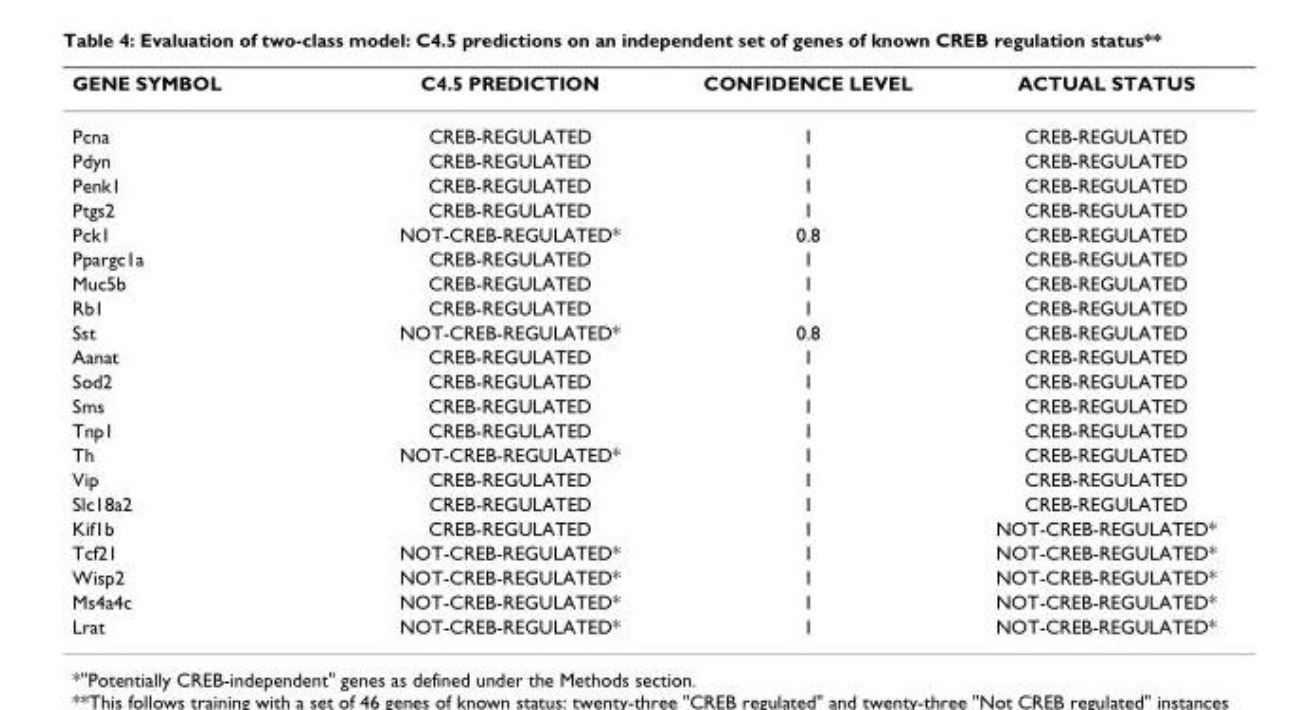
<table><thead><tr><td>GENE SYMBOL</td><td>C4.5 PREDICTION</td><td>CONFIDENCE LEVEL</td><td>ACTUAL STATUS</td></tr></thead><tbody><tr><td>Pcna</td><td>CREB-REGULATED</td><td>1</td><td>CREB-REGULATED</td></tr><tr><td>Pdyn</td><td>CREB-REGULATED</td><td>1</td><td>CREB-REGULATED</td></tr><tr><td>Penk1</td><td>CREB-REGULATED</td><td>1</td><td>CREB-REGULATED</td></tr><tr><td>Ptgs2</td><td>CREB-REGULATED</td><td>1</td><td>CREB-REGULATED</td></tr><tr><td>Pck1</td><td>NOT-CREB-REGULATED*</td><td>0.8</td><td>CREB-REGULATED</td></tr><tr><td>Ppargc1a</td><td>CREB-REGULATED</td><td>1</td><td>CREB-REGULATED</td></tr><tr><td>Muc5b</td><td>CREB-REGULATED</td><td>1</td><td>CREB-REGULATED</td></tr><tr><td>Rb1</td><td>CREB-REGULATED</td><td>1</td><td>CREB-REGULATED</td></tr><tr><td>Sst</td><td>NOT-CREB-REGULATED*</td><td>0.8</td><td>CREB-REGULATED</td></tr><tr><td>Aanat</td><td>CREB-REGULATED</td><td>1</td><td>CREB-REGULATED</td></tr><tr><td>Sod2</td><td>CREB-REGULATED</td><td>1</td><td>CREB-REGULATED</td></tr><tr><td>Sms</td><td>CREB-REGULATED</td><td>1</td><td>CREB-REGULATED</td></tr><tr><td>Tnp1</td><td>CREB-REGULATED</td><td>1</td><td>CREB-REGULATED</td></tr><tr><td>Th</td><td>NOT-CREB-REGULATED*</td><td>1</td><td>CREB-REGULATED</td></tr><tr><td>Vip</td><td>CREB-REGULATED</td><td>1</td><td>CREB-REGULATED</td></tr><tr><td>Slc18a2</td><td>CREB-REGULATED</td><td>1</td><td>CREB-REGULATED</td></tr><tr><td>Kif1b</td><td>CREB-REGULATED</td><td>1</td><td>NOT-CREB-REGULATED*</td></tr><tr><td>Tcf21</td><td>NOT-CREB-REGULATED*</td><td>1</td><td>NOT-CREB-REGULATED*</td></tr><tr><td>Wisp2</td><td>NOT-CREB-REGULATED*</td><td>1</td><td>NOT-CREB-REGULATED*</td></tr><tr><td>Ms4a4c</td><td>NOT-CREB-REGULATED*</td><td>1</td><td>NOT-CREB-REGULATED*</td></tr><tr><td>Lrat</td><td>NOT-CREB-REGULATED*</td><td>1</td><td>NOT-CREB-REGULATED*</td></tr></tbody></table>